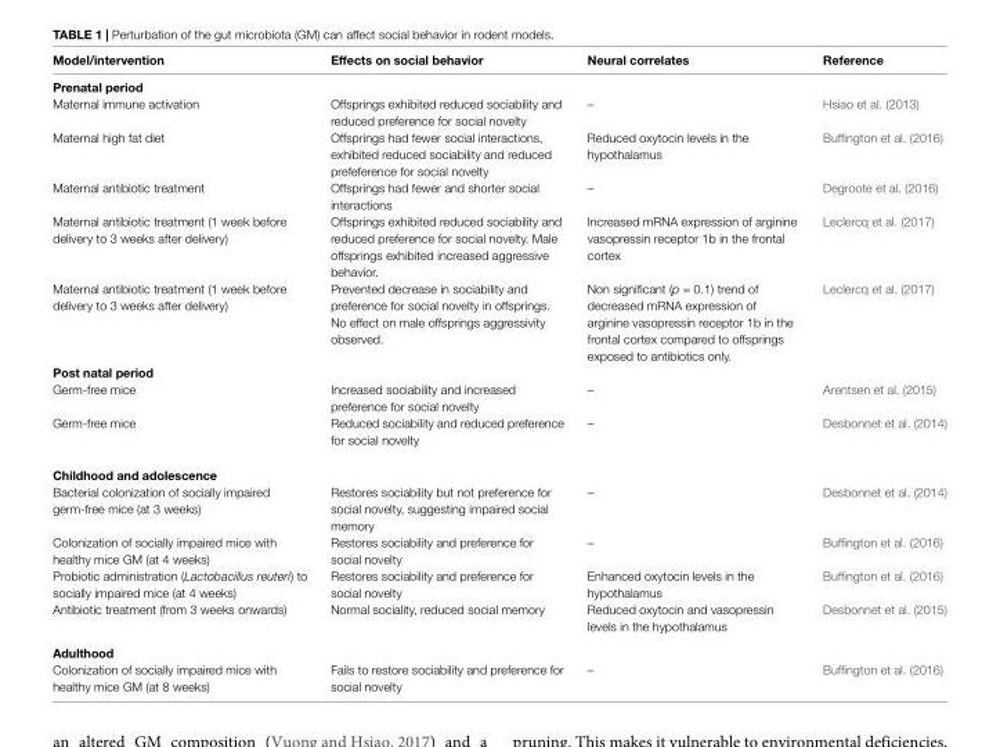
<table><thead><tr><td>Model/intervention</td><td>Effects on social behavior</td><td>Neural correlates</td><td>Reference</td></tr></thead><tbody><tr><td colspan="4">Prenatal period</td></tr><tr><td>Maternal immune activation</td><td>Offsprings exhibited reduced sociability and reduced preference for social novelty</td><td>–</td><td>Hsiao et al. (2013)</td></tr><tr><td>Maternal high fat diet</td><td>Offsprings had fewer social interactions, exhibited reduced sociability and reduced prefeference for social novelty</td><td>Reduced oxytocin levels in the hypothalamus</td><td>Buffington et al. (2016)</td></tr><tr><td>Maternal antibiotic treatment</td><td>Offsprings had fewer and shorter social interactions</td><td>–</td><td>Degroote et al. (2016)</td></tr><tr><td>Maternal antibiotic treatment (1 week before delivery to 3 weeks after delivery)</td><td>Offsprings exhibited reduced sociability and reduced preference for social novelty. Male offsprings exhibited increased aggressive behavior.</td><td>Increased mRNA expression of arginine vasopressin receptor 1b in the frontal cortex</td><td>Leclercq et al. (2017)</td></tr><tr><td>Maternal antibiotic treatment (1 week before delivery to 3 weeks after delivery)</td><td>Prevented decrease in sociability and preference for social novelty in offsprings. No effect on male offsprings aggressivity observed.</td><td>Non significant (p = 0.1) trend of decreased mRNA expression of arginine vasopressin receptor 1b in the frontal cortex compared to offsprings exposed to antibiotics only.</td><td>Leclercq et al. (2017)</td></tr><tr><td colspan="4">Post natal period</td></tr><tr><td>Germ-free mice</td><td>Increased sociability and increased preference for social novelty</td><td>–</td><td>Arentsen et al. (2015)</td></tr><tr><td>Germ-free mice</td><td>Reduced sociability and reduced preference for social novelty</td><td>–</td><td>Desbonnet et al. (2014)</td></tr><tr><td colspan="4">Childhood and adolescence</td></tr><tr><td>Bacterial colonization of socially impaired germ-free mice (at 3 weeks)</td><td>Restores sociability but not preference for social novelty, suggesting impaired social memory</td><td>–</td><td>Desbonnet et al. (2014)</td></tr><tr><td>Colonization of socially impaired mice with healthy mice GM (at 4 weeks)</td><td>Restores sociability and preference for social novelty</td><td>–</td><td>Buffington et al. (2016)</td></tr><tr><td>Probiotic administration (Lactobacillus reuteri) to socially impaired mice (at 4 weeks)</td><td>Restores sociability and preference for social novelty</td><td>Enhanced oxytocin levels in the hypothalamus</td><td>Buffington et al. (2016)</td></tr><tr><td>Antibiotic treatment (from 3 weeks onwards)</td><td>Normal sociality, reduced social memory</td><td>Reduced oxytocin and vasopressin levels in the hypothalamus</td><td>Desbonnet et al. (2015)</td></tr><tr><td colspan="4">Adulthood</td></tr><tr><td>Colonization of socially impaired mice with healthy mice GM (at 8 weeks)</td><td>Fails to restore sociability and preference for social novelty</td><td>–</td><td>Buffington et al. (2016)</td></tr></tbody></table>